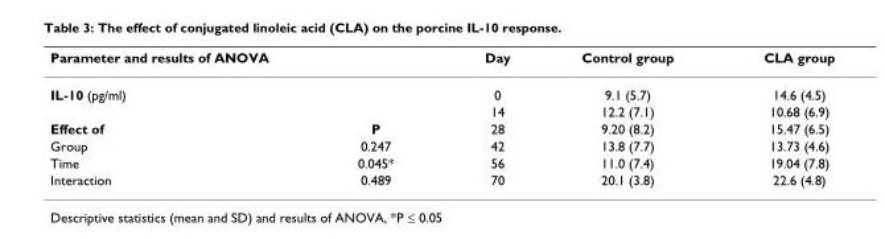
<table><thead><tr><td colspan="2">Parameter and results of ANOVA</td><td rowspan="2">Day 0</td><td rowspan="2">Control group 9.1 (5.7)</td><td rowspan="2">CLA group 14.6 (4.5)</td></tr><tr><td>IL-10 (pg/ml)</td><td></td></tr></thead><tbody><tr><td></td><td></td><td>14</td><td>12.2 (7.1)</td><td>10.68 (6.9)</td></tr><tr><td>Effect of</td><td>P</td><td>28</td><td>9.20 (8.2)</td><td>15.47 (6.5)</td></tr><tr><td>Group</td><td>0.247</td><td>42</td><td>13.8 (7.7)</td><td>13.73 (4.6)</td></tr><tr><td>Time</td><td>0.045*</td><td>56</td><td>11.0 (7.4)</td><td>19.04 (7.8)</td></tr><tr><td>Interaction</td><td>0.489</td><td>70</td><td>20.1 (3.8)</td><td>22.6 (4.8)</td></tr></tbody></table>